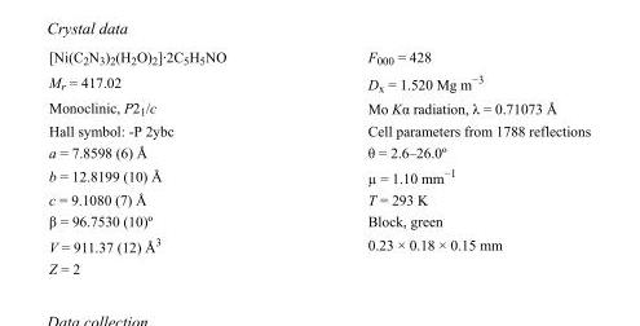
<table><tbody><tr><td>[Ni(C<sub>2</sub>N<sub>3</sub>)<sub>2</sub>(H<sub>2</sub>O)<sub>2</sub>]·2C<sub>5</sub>H<sub>5</sub>NO</td><td>F000 = 428</td></tr><tr><td>M<sub>r</sub> = 417.02</td><td>D<sub>x</sub> = 1.520 Mg m<sup>−3</sup></td></tr><tr><td>Monoclinic, P2<sub>1</sub>/c</td><td>Mo Kα radiation, λ = 0.71073 Å</td></tr><tr><td>Hall symbol: -P 2ybc</td><td>Cell parameters from 1788 reflections</td></tr><tr><td>a = 7.8598 (6) Å</td><td>θ = 2.6–26.0º</td></tr><tr><td>b = 12.8199 (10) Å</td><td>µ = 1.10 mm<sup>−1</sup></td></tr><tr><td>c = 9.1080 (7) Å</td><td>T = 293 K</td></tr><tr><td>β = 96.7530 (10)º</td><td>Block, green</td></tr><tr><td>V = 911.37 (12) Å<sup>3</sup></td><td>0.23 × 0.18 × 0.15 mm</td></tr><tr><td>Z = 2</td><td></td></tr></tbody></table>